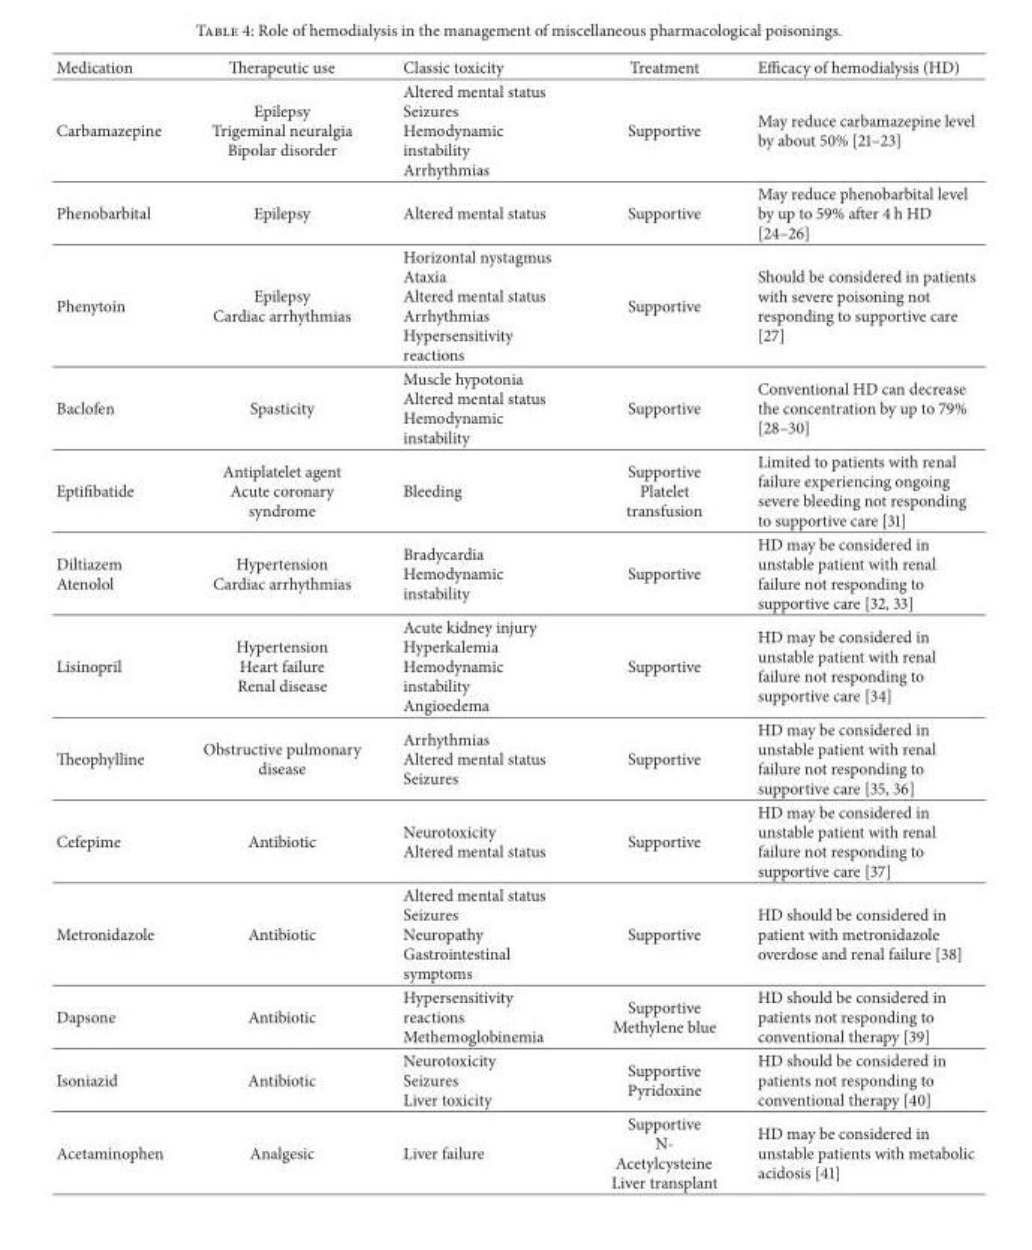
<table><thead><tr><td>Medication</td><td>Therapeutic use</td><td>Classic toxicity</td><td>Treatment</td><td>Efficacy of hemodialysis (HD)</td></tr></thead><tbody><tr><td>Carbamazepine</td><td>Epilepsy Trigeminal neuralgia Bipolar disorder</td><td>Altered mental status Seizures Hemodynamic instability Arrhythmias</td><td>Supportive</td><td>May reduce carbamazepine level by about 50% [21–23]</td></tr><tr><td>Phenobarbital</td><td>Epilepsy</td><td>Altered mental status</td><td>Supportive</td><td>May reduce phenobarbital level by up to 59% after 4 h HD [24–26]</td></tr><tr><td>Phenytoin</td><td>Epilepsy Cardiac arrhythmias</td><td>Horizontal nystagmus Ataxia Altered mental status Arrhythmias Hypersensitivity reactions</td><td>Supportive</td><td>Should be considered in patients with severe poisoning not responding to supportive care [27]</td></tr><tr><td>Baclofen</td><td>Spasticity</td><td>Muscle hypotonia Altered mental status Hemodynamic instability</td><td>Supportive</td><td>Conventional HD can decrease the concentration by up to 79% [28–30]</td></tr><tr><td>Eptifibatide</td><td>Antiplatelet agent Acute coronary syndrome</td><td>Bleeding</td><td>Supportive Platelet transfusion</td><td>Limited to patients with renal failure experiencing ongoing severe bleeding not responding to supportive care [31]</td></tr><tr><td>Diltiazem Atenolol</td><td>Hypertension Cardiac arrhythmias</td><td>Bradycardia Hemodynamic instability</td><td>Supportive</td><td>HD may be considered in unstable patient with renal failure not responding to supportive care [32, 33]</td></tr><tr><td>Lisinopril</td><td>Hypertension Heart failure Renal disease</td><td>Acute kidney injury Hyperkalemia Hemodynamic instability Angioedema</td><td>Supportive</td><td>HD may be considered in unstable patient with renal failure not responding to supportive care [34]</td></tr><tr><td>Theophylline</td><td>Obstructive pulmonary disease</td><td>Arrhythmias Altered mental status Seizures</td><td>Supportive</td><td>HD may be considered in unstable patient with renal failure not responding to supportive care [35, 36]</td></tr><tr><td>Cefepime</td><td>Antibiotic</td><td>Neurotoxicity Altered mental status</td><td>Supportive</td><td>HD may be considered in unstable patient with renal failure not responding to supportive care [37]</td></tr><tr><td>Metronidazole</td><td>Antibiotic</td><td>Altered mental status Seizures Neuropathy Gastrointestinal symptoms</td><td>Supportive</td><td>HD should be considered in patient with metronidazole overdose and renal failure [38]</td></tr><tr><td>Dapsone</td><td>Antibiotic</td><td>Hypersensitivity reactions Methemoglobinemia</td><td>Supportive Methylene blue</td><td>HD should be considered in patients not responding to conventional therapy [39]</td></tr><tr><td>Isoniazid</td><td>Antibiotic</td><td>Neurotoxicity Seizures Liver toxicity</td><td>Supportive Pyridoxine</td><td>HD should be considered in patients not responding to conventional therapy [40]</td></tr><tr><td>Acetaminophen</td><td>Analgesic</td><td>Liver failure</td><td>Supportive N- Acetylcysteine Liver transplant</td><td>HD may be considered in unstable patients with metabolic acidosis [41]</td></tr></tbody></table>